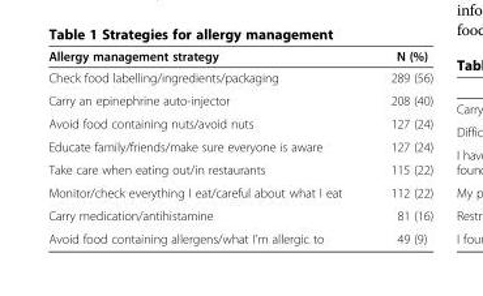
<table><thead><tr><td>Allergy management strategy</td><td>N (%)</td></tr></thead><tbody><tr><td>Check food labelling/ingredients/packaging</td><td>289 (56)</td></tr><tr><td>Carry an epinephrine auto-injector</td><td>208 (40)</td></tr><tr><td>Avoid food containing nuts/avoid nuts</td><td>127 (24)</td></tr><tr><td>Educate family/friends/make sure everyone is aware</td><td>127 (24)</td></tr><tr><td>Take care when eating out/in restaurants</td><td>115 (22)</td></tr><tr><td>Monitor/check everything I eat/careful about what I eat</td><td>112 (22)</td></tr><tr><td>Carry medication/antihistamine</td><td>81 (16)</td></tr><tr><td>Avoid food containing allergens/what I’m allergic to</td><td>49 (9)</td></tr></tbody></table>